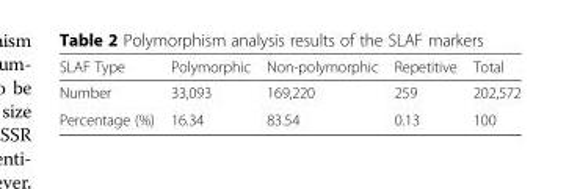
<table><thead><tr><td>SLAF Type</td><td>Polymorphic</td><td>Non-polymorphic</td><td>Repetitive</td><td>Total</td></tr></thead><tbody><tr><td>Number</td><td>33,093</td><td>169,220</td><td>259</td><td>202,572</td></tr><tr><td>Percentage (%)</td><td>16.34</td><td>83.54</td><td>0.13</td><td>100</td></tr></tbody></table>